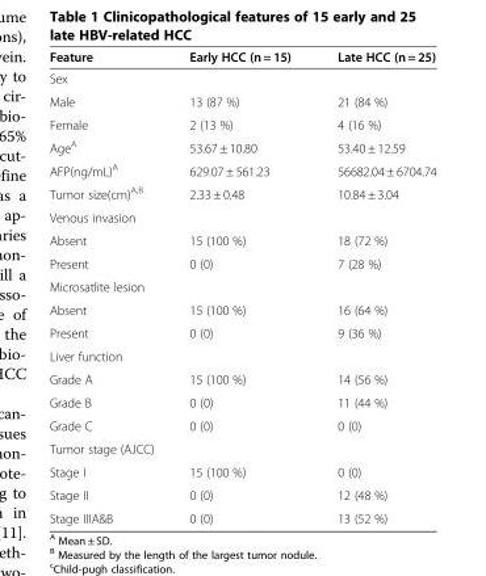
<table><thead><tr><td>Feature</td><td>Early HCC (n = 15)</td><td>Late HCC (n = 25)</td></tr></thead><tbody><tr><td colspan="3">Sex</td></tr><tr><td>Male</td><td>13 (87 %)</td><td>21 (84 %)</td></tr><tr><td>Female</td><td>2 (13 %)</td><td>4 (16 %)</td></tr><tr><td>Age<sup>A</sup></td><td>53.67 ± 10.80</td><td>53.40 ± 12.59</td></tr><tr><td>AFP(ng/mL)<sup>A</sup></td><td>629.07 ± 561.23</td><td>56682.04 ± 6704.74</td></tr><tr><td>Tumor size(cm)<sup>A,B</sup></td><td>2.33 ± 0.48</td><td>10.84 ± 3.04</td></tr><tr><td colspan="3">Venous invasion</td></tr><tr><td>Absent</td><td>15 (100 %)</td><td>18 (72 %)</td></tr><tr><td>Present</td><td>0 (0)</td><td>7 (28 %)</td></tr><tr><td colspan="3">Microsatlite lesion</td></tr><tr><td>Absent</td><td>15 (100 %)</td><td>16 (64 %)</td></tr><tr><td>Present</td><td>0 (0)</td><td>9 (36 %)</td></tr><tr><td colspan="3">Liver function</td></tr><tr><td>Grade A</td><td>15 (100 %)</td><td>14 (56 %)</td></tr><tr><td>Grade B</td><td>0 (0)</td><td>11 (44 %)</td></tr><tr><td>Grade C</td><td>0 (0)</td><td>0 (0)</td></tr><tr><td colspan="3">Tumor stage (AJCC)</td></tr><tr><td>Stage I</td><td>15 (100 %)</td><td>0 (0)</td></tr><tr><td>Stage II</td><td>0 (0)</td><td>12 (48 %)</td></tr><tr><td>Stage IIIA&amp;B</td><td>0 (0)</td><td>13 (52 %)</td></tr></tbody></table>